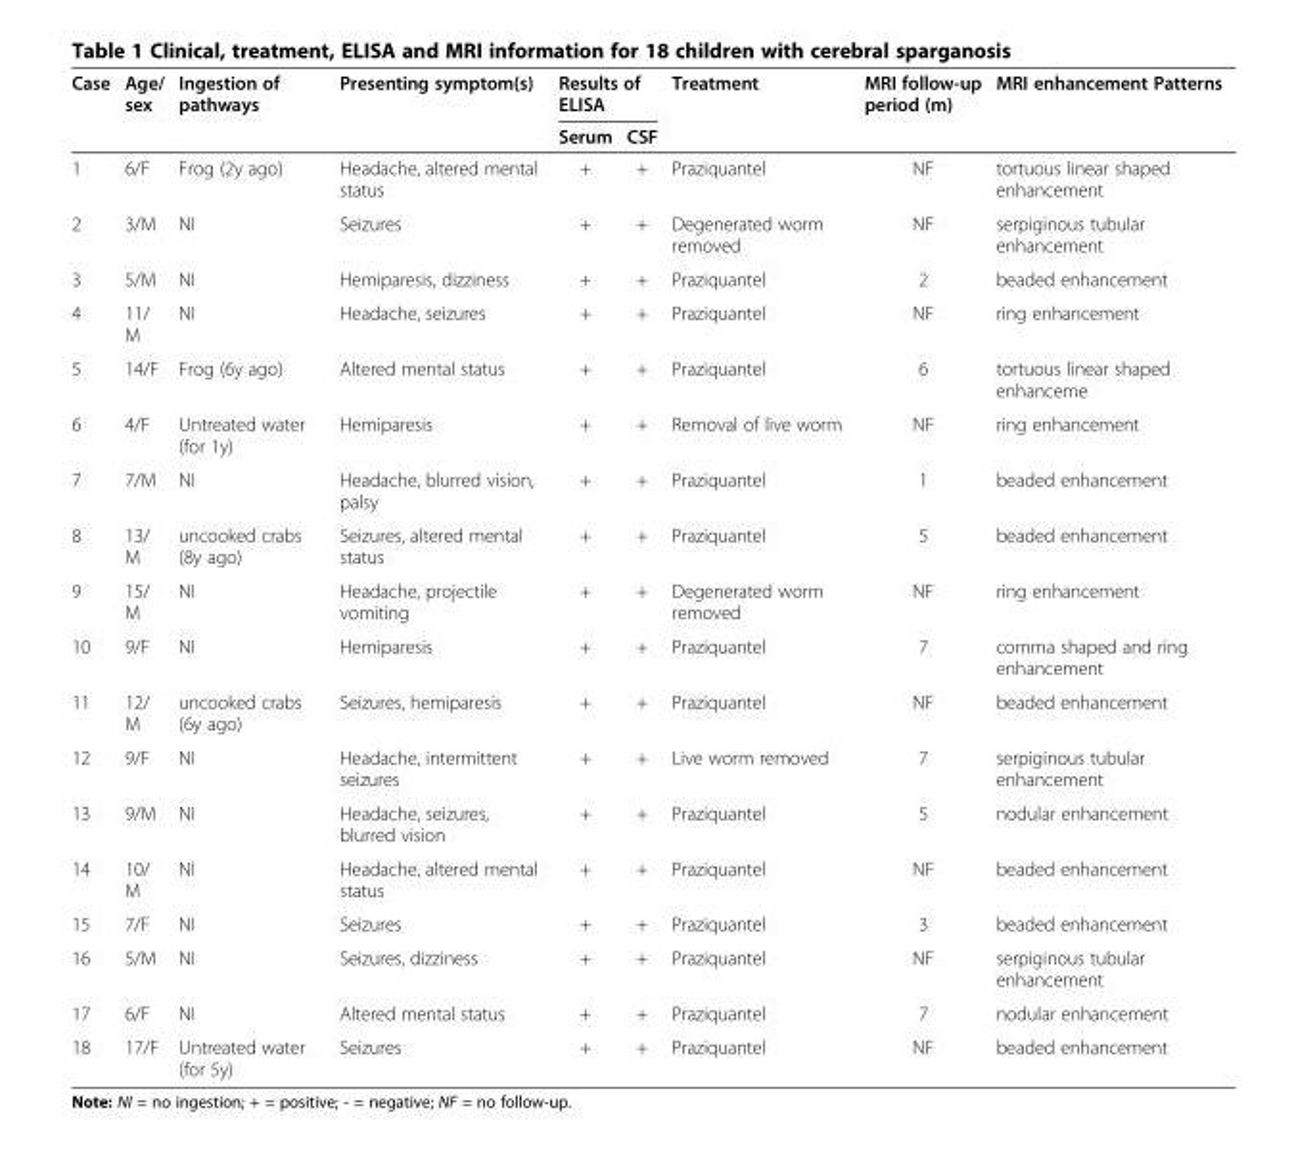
<table><thead><tr><td rowspan="2">Case</td><td rowspan="2">Age/ sex</td><td rowspan="2">Ingestion of pathways</td><td rowspan="2">Presenting symptom(s)</td><td colspan="2">Results of ELISA</td><td rowspan="2">Treatment</td><td rowspan="2">MRI follow-up period (m)</td><td rowspan="2">MRI enhancement Patterns</td></tr><tr><td>Serum</td><td>CSF</td></tr></thead><tbody><tr><td>1</td><td>6/F</td><td>Frog (2y ago)</td><td>Headache, altered mental status</td><td>+</td><td>+</td><td>Praziquantel</td><td>NF</td><td>tortuous linear shaped enhancement</td></tr><tr><td>2</td><td>3/M</td><td>NI</td><td>Seizures</td><td>+</td><td>+</td><td>Degenerated worm removed</td><td>NF</td><td>serpiginous tubular enhancement</td></tr><tr><td>3</td><td>5/M</td><td>NI</td><td>Hemiparesis, dizziness</td><td>+</td><td>+</td><td>Praziquantel</td><td>2</td><td>beaded enhancement</td></tr><tr><td>4</td><td>11/ M</td><td>NI</td><td>Headache, seizures</td><td>+</td><td>+</td><td>Praziquantel</td><td>NF</td><td>ring enhancement</td></tr><tr><td>5</td><td>14/F</td><td>Frog (6y ago)</td><td>Altered mental status</td><td>+</td><td>+</td><td>Praziquantel</td><td>6</td><td>tortuous linear shaped enhanceme</td></tr><tr><td>6</td><td>4/F</td><td>Untreated water (for 1y)</td><td>Hemiparesis</td><td>+</td><td>+</td><td>Removal of live worm</td><td>NF</td><td>ring enhancement</td></tr><tr><td>7</td><td>7/M</td><td>NI</td><td>Headache, blurred vision, palsy</td><td>+</td><td>+</td><td>Praziquantel</td><td>1</td><td>beaded enhancement</td></tr><tr><td>8</td><td>13/ M</td><td>uncooked crabs (8y ago)</td><td>Seizures, altered mental status</td><td>+</td><td>+</td><td>Praziquantel</td><td>5</td><td>beaded enhancement</td></tr><tr><td>9</td><td>15/ M</td><td>NI</td><td>Headache, projectile vomiting</td><td>+</td><td>+</td><td>Degenerated worm removed</td><td>NF</td><td>ring enhancement</td></tr><tr><td>10</td><td>9/F</td><td>NI</td><td>Hemiparesis</td><td>+</td><td>+</td><td>Praziquantel</td><td>7</td><td>comma shaped and ring enhancement</td></tr><tr><td>11</td><td>12/ M</td><td>uncooked crabs (6y ago)</td><td>Seizures, hemiparesis</td><td>+</td><td>+</td><td>Praziquantel</td><td>NF</td><td>beaded enhancement</td></tr><tr><td>12</td><td>9/F</td><td>NI</td><td>Headache, intermittent seizures</td><td>+</td><td>+</td><td>Live worm removed</td><td>7</td><td>serpiginous tubular enhancement</td></tr><tr><td>13</td><td>9/M</td><td>NI</td><td>Headache, seizures, blurred vision</td><td>+</td><td>+</td><td>Praziquantel</td><td>5</td><td>nodular enhancement</td></tr><tr><td>14</td><td>10/ M</td><td>NI</td><td>Headache, altered mental status</td><td>+</td><td>+</td><td>Praziquantel</td><td>NF</td><td>beaded enhancement</td></tr><tr><td>15</td><td>7/F</td><td>NI</td><td>Seizures</td><td>+</td><td>+</td><td>Praziquantel</td><td>3</td><td>beaded enhancement</td></tr><tr><td>16</td><td>5/M</td><td>NI</td><td>Seizures, dizziness</td><td>+</td><td>+</td><td>Praziquantel</td><td>NF</td><td>serpiginous tubular enhancement</td></tr><tr><td>17</td><td>6/F</td><td>NI</td><td>Altered mental status</td><td>+</td><td>+</td><td>Praziquantel</td><td>7</td><td>nodular enhancement</td></tr><tr><td>18</td><td>17/F</td><td>Untreated water (for 5y)</td><td>Seizures</td><td>+</td><td>+</td><td>Praziquantel</td><td>NF</td><td>beaded enhancement</td></tr></tbody></table>